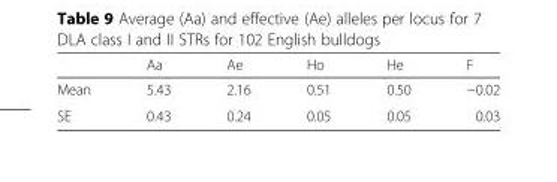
<table><thead><tr><td></td><td>Aa</td><td>Ae</td><td>Ho</td><td>He</td><td>F</td></tr></thead><tbody><tr><td>Mean</td><td>5.43</td><td>2.16</td><td>0.51</td><td>0.50</td><td>−0.02</td></tr><tr><td>SE</td><td>0.43</td><td>0.24</td><td>0.05</td><td>0.05</td><td>0.03</td></tr></tbody></table>